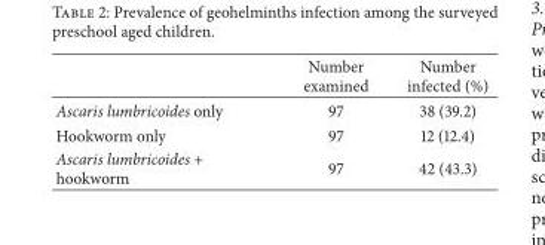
<table><thead><tr><td></td><td>Number examined</td><td>Number infected (%)</td></tr></thead><tbody><tr><td>Ascaris lumbricoides only</td><td>97</td><td>38 (39.2)</td></tr><tr><td>Hookworm only</td><td>97</td><td>12 (12.4)</td></tr><tr><td>Ascaris lumbricoides + hookworm</td><td>97</td><td>42 (43.3)</td></tr></tbody></table>